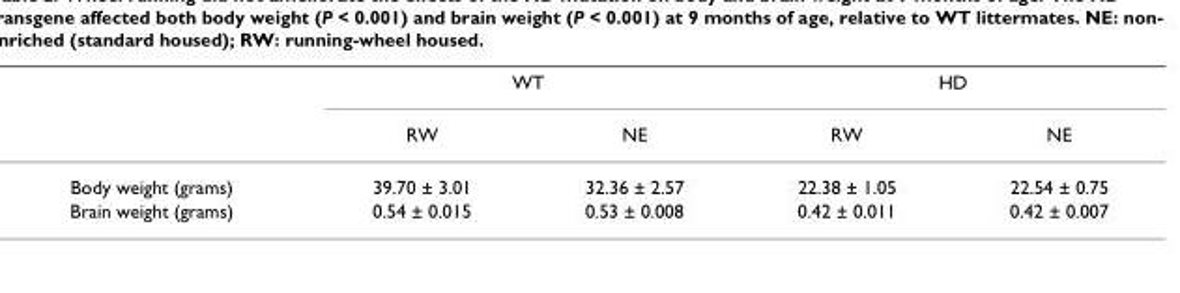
<table><thead><tr><td rowspan="2"></td><td colspan="2">WT</td><td colspan="2">HD</td></tr><tr><td>RW</td><td>NE</td><td>RW</td><td>NE</td></tr></thead><tbody><tr><td>Body weight (grams)</td><td>39.70 ± 3.01</td><td>32.36 ± 2.57</td><td>22.38 ± 1.05</td><td>22.54 ± 0.75</td></tr><tr><td>Brain weight (grams)</td><td>0.54 ± 0.015</td><td>0.53 ± 0.008</td><td>0.42 ± 0.011</td><td>0.42 ± 0.007</td></tr></tbody></table>